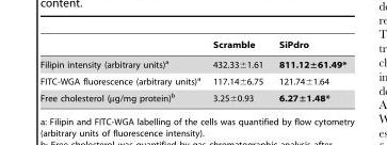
<table><thead><tr><td></td><td>Scramble</td><td>SiPdro</td></tr></thead><tbody><tr><td>Filipin intensity (arbitrary units)<sup>a</sup></td><td>432.33±1.61</td><td>811.12±61.49*</td></tr><tr><td>FITC-WGA fluorescence (arbitrary units)<sup>a</sup></td><td>117.14±6.75</td><td>121.74±1.64</td></tr><tr><td>Free cholesterol (µg/mg protein)<sup>b</sup></td><td>3.25±0.93</td><td>6.27±1.48*</td></tr></tbody></table>